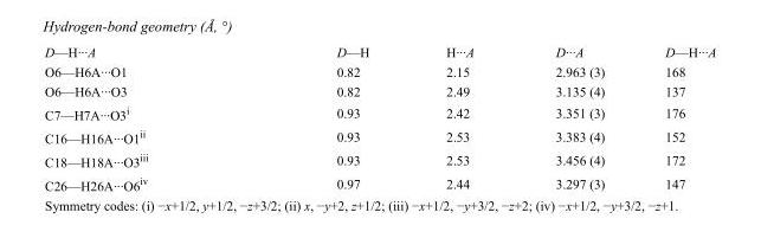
<table><tbody><tr><td>D—H···A</td><td>D—H</td><td>H···A</td><td>D···A</td><td>D—H···A</td></tr><tr><td>O6—H6A···O1</td><td>0.82</td><td>2.15</td><td>2.963 (3)</td><td>168</td></tr><tr><td>O6—H6A···O3</td><td>0.82</td><td>2.49</td><td>3.135 (4)</td><td>137</td></tr><tr><td>C7—H7A···O3<sup>i</sup></td><td>0.93</td><td>2.42</td><td>3.351 (3)</td><td>176</td></tr><tr><td>C16—H16A···O1<sup>ii</sup></td><td>0.93</td><td>2.53</td><td>3.383 (4)</td><td>152</td></tr><tr><td>C18—H18A···O3<sup>iii</sup></td><td>0.93</td><td>2.53</td><td>3.456 (4)</td><td>172</td></tr><tr><td>C26—H26A···O6<sup>iv</sup></td><td>0.97</td><td>2.44</td><td>3.297 (3)</td><td>147</td></tr></tbody></table>